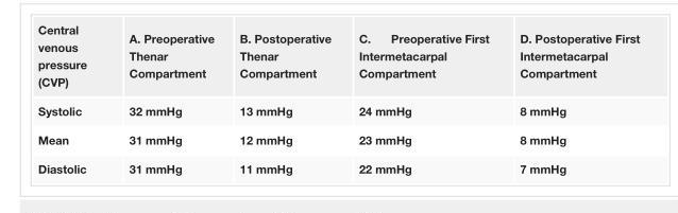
<table><tbody><tr><td>venous pressure (CVP)</td><td>A. Preoperative Thenar Compartment</td><td>B. Postoperative Thenar Compartment</td><td>C. Preoperative First Intermetacarpal Compartment</td><td>D. Postoperative First Intermetacarpal Compartment</td></tr><tr><td>Systolic</td><td>32 mmHg</td><td>13 mmHg</td><td>24 mmHg</td><td>8 mmHg</td></tr><tr><td>Mean</td><td>31 mmHg</td><td>12 mmHg</td><td>23 mmHg</td><td>8 mmHg</td></tr><tr><td>Diastolic</td><td>31 mmHg</td><td>11 mmHg</td><td>22 mmHg</td><td>7 mmHg</td></tr></tbody></table>